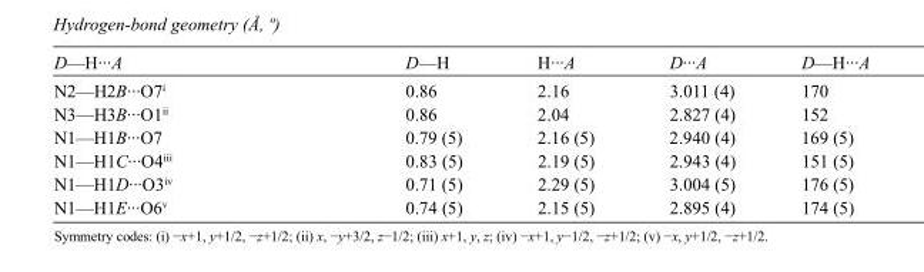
<table><tbody><tr><td>D—H···A</td><td>D—H</td><td>H···A</td><td>D···A</td><td>D—H···A</td></tr><tr><td>N2—H2B···O7<sup>i</sup></td><td>0.86</td><td>2.16</td><td>3.011 (4)</td><td>170</td></tr><tr><td>N3—H3B···O1<sup>ii</sup></td><td>0.86</td><td>2.04</td><td>2.827 (4)</td><td>152</td></tr><tr><td>N1—H1B···O7</td><td>0.79 (5)</td><td>2.16 (5)</td><td>2.940 (4)</td><td>169 (5)</td></tr><tr><td>N1—H1C···O4<sup>iii</sup></td><td>0.83 (5)</td><td>2.19 (5)</td><td>2.943 (4)</td><td>151 (5)</td></tr><tr><td>N1—H1D···O3<sup>iv</sup></td><td>0.71 (5)</td><td>2.29 (5)</td><td>3.004 (5)</td><td>176 (5)</td></tr><tr><td>N1—H1E···O6<sup>v</sup></td><td>0.74 (5)</td><td>2.15 (5)</td><td>2.895 (4)</td><td>174 (5)</td></tr></tbody></table>